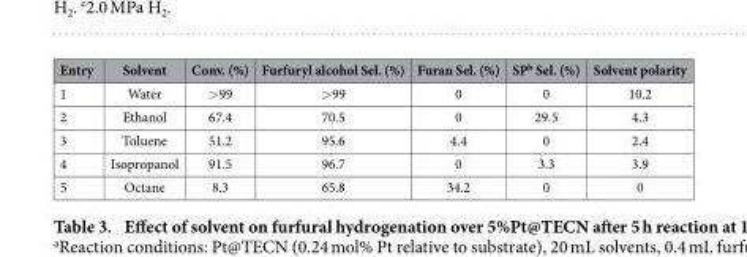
<table><thead><tr><td>Entry</td><td>Solvent</td><td>Conv. (%)</td><td>Furfuryl alcohol Sel. (%)</td><td>Furan Sel. (%)</td><td>SP<sup>b</sup> Sel. (%)</td><td>Solvent polarity</td></tr></thead><tbody><tr><td>1</td><td>Water</td><td>&gt;99</td><td>&gt;99</td><td>0</td><td>0</td><td>10.2</td></tr><tr><td>2</td><td>Ethanol</td><td>67.4</td><td>70.5</td><td>0</td><td>29.5</td><td>4.3</td></tr><tr><td>3</td><td>Toluene</td><td>51.2</td><td>95.6</td><td>4.4</td><td>0</td><td>2.4</td></tr><tr><td>4</td><td>Isopropanol</td><td>91.5</td><td>96.7</td><td>0</td><td>3.3</td><td>3.9</td></tr><tr><td>5</td><td>Octane</td><td>8.3</td><td>65.8</td><td>34.2</td><td>0</td><td>0</td></tr></tbody></table>